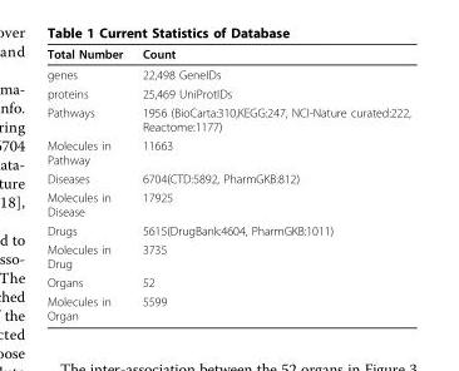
<table><thead><tr><td>Total Number</td><td>Count</td></tr></thead><tbody><tr><td>genes</td><td>22,498 GeneIDs</td></tr><tr><td>proteins</td><td>25,469 UniProtIDs</td></tr><tr><td>Pathways</td><td>1956 (BioCarta:310,KEGG:247, NCI-Nature curated:222, Reactome:1177)</td></tr><tr><td>Molecules in Pathway</td><td>11663</td></tr><tr><td>Diseases</td><td>6704(CTD:5892, PharmGKB:812)</td></tr><tr><td>Molecules in Disease</td><td>17925</td></tr><tr><td>Drugs</td><td>5615(DrugBank:4604, PharmGKB:1011)</td></tr><tr><td>Molecules in Drug</td><td>3735</td></tr><tr><td>Organs</td><td>52</td></tr><tr><td>Molecules in Organ</td><td>5599</td></tr></tbody></table>